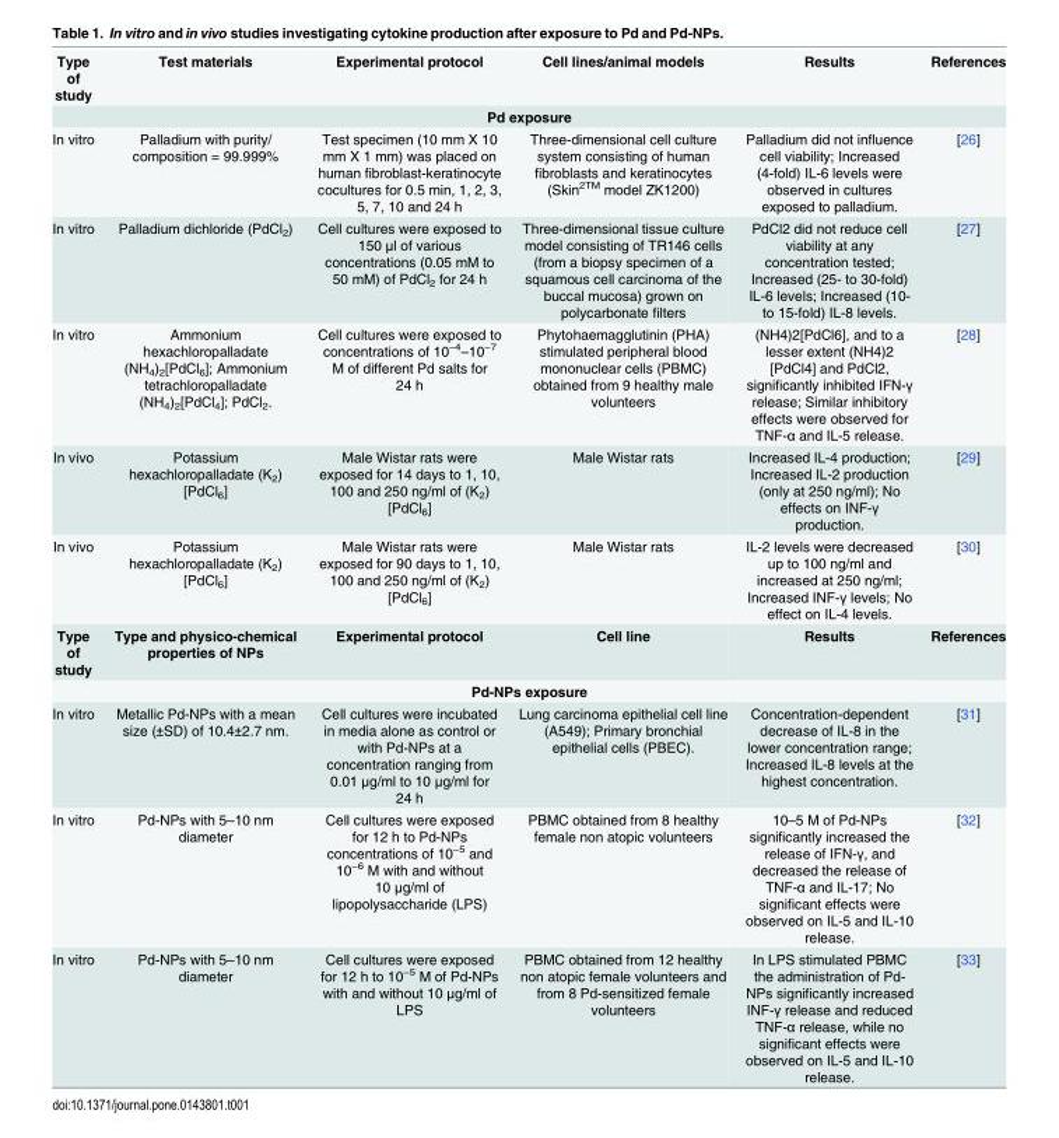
<table><tbody><tr><td>Type of study</td><td>Test materials</td><td>Experimental protocol</td><td>Cell lines/animal models</td><td>Results</td><td>References</td></tr><tr><td colspan="6">Pd exposure</td></tr><tr><td>In vitro</td><td>Palladium with purity/ composition = 99.999%</td><td>Test specimen (10 mm X 10 mm X 1 mm) was placed on human fibroblast-keratinocyte cocultures for 0.5 min, 1, 2, 3, 5, 7, 10 and 24 h</td><td>Three-dimensional cell culture system consisting of human fibroblasts and keratinocytes (Skin<sup>2TM</sup> model ZK1200)</td><td>Palladium did not influence cell viability; Increased (4-fold) IL-6 levels were observed in cultures exposed to palladium.</td><td>[26]</td></tr><tr><td>In vitro</td><td>Palladium dichloride (PdCl<sub>2</sub>)</td><td>Cell cultures were exposed to 150 μl of various concentrations (0.05 mM to 50 mM) of PdCl<sub>2</sub> for 24 h</td><td>Three-dimensional tissue culture model consisting of TR146 cells (from a biopsy specimen of a squamous cell carcinoma of the buccal mucosa) grown on polycarbonate filters</td><td>PdCl2 did not reduce cell viability at any concentration tested; Increased (25- to 30-fold) IL-6 levels; Increased (10- to 15-fold) IL-8 levels.</td><td>[27]</td></tr><tr><td>In vitro</td><td>Ammonium hexachloropalladate (NH<sub>4</sub>)<sub>2</sub>[PdCl<sub>6</sub>]; Ammonium tetrachloropalladate (NH<sub>4</sub>)<sub>2</sub>[PdCl<sub>4</sub>]; PdCl<sub>2</sub>.</td><td>Cell cultures were exposed to concentrations of 10<sup>−4</sup>–10<sup>−7</sup> M of different Pd salts for 24 h</td><td>Phytohaemagglutinin (PHA) stimulated peripheral blood mononuclear cells (PBMC) obtained from 9 healthy male volunteers</td><td>(NH4)2[PdCl6], and to a lesser extent (NH4)2 [PdCl4] and PdCl2, significantly inhibited IFN-γ release; Similar inhibitory effects were observed for TNF-α and IL-5 release.</td><td>[28]</td></tr><tr><td>In vivo</td><td>Potassium hexachloropalladate (K<sub>2</sub>) [PdCl<sub>6</sub>]</td><td>Male Wistar rats were exposed for 14 days to 1, 10, 100 and 250 ng/ml of (K<sub>2</sub>) [PdCl<sub>6</sub>]</td><td>Male Wistar rats</td><td>Increased IL-4 production; Increased IL-2 production (only at 250 ng/ml); No effects on INF-γ production.</td><td>[29]</td></tr><tr><td>In vivo</td><td>Potassium hexachloropalladate (K<sub>2</sub>) [PdCl<sub>6</sub>]</td><td>Male Wistar rats were exposed for 90 days to 1, 10, 100 and 250 ng/ml of (K<sub>2</sub>) [PdCl<sub>6</sub>]</td><td>Male Wistar rats</td><td>IL-2 levels were decreased up to 100 ng/ml and increased at 250 ng/ml; Increased INF-γ levels; No effect on IL-4 levels.</td><td>[30]</td></tr><tr><td>Type of study</td><td>Type and physico-chemical properties of NPs</td><td>Experimental protocol</td><td>Cell line</td><td>Results</td><td>References</td></tr><tr><td colspan="6">Pd-NPs exposure</td></tr><tr><td>In vitro</td><td>Metallic Pd-NPs with a mean size (±SD) of 10.4±2.7 nm.</td><td>Cell cultures were incubated in media alone as control or with Pd-NPs at a concentration ranging from 0.01 μg/ml to 10 μg/ml for 24 h</td><td>Lung carcinoma epithelial cell line (A549); Primary bronchial epithelial cells (PBEC).</td><td>Concentration-dependent decrease of IL-8 in the lower concentration range; Increased IL-8 levels at the highest concentration.</td><td>[31]</td></tr><tr><td>In vitro</td><td>Pd-NPs with 5–10 nm diameter</td><td>Cell cultures were exposed for 12 h to Pd-NPs concentrations of 10<sup>−5</sup> and 10<sup>−6</sup> M with and without 10 μg/ml of lipopolysaccharide (LPS)</td><td>PBMC obtained from 8 healthy female non atopic volunteers</td><td>10–5 M of Pd-NPs significantly increased the release of IFN-γ, and decreased the release of TNF-α and IL-17; No significant effects were observed on IL-5 and IL-10 release.</td><td>[32]</td></tr><tr><td>In vitro</td><td>Pd-NPs with 5–10 nm diameter</td><td>Cell cultures were exposed for 12 h to 10<sup>−5</sup> M of Pd-NPs with and without 10 μg/ml of LPS</td><td>PBMC obtained from 12 healthy non atopic female volunteers and from 8 Pd-sensitized female volunteers</td><td>In LPS stimulated PBMC the administration of Pd- NPs significantly increased INF-γ release and reduced TNF-α release, while no significant effects were observed on IL-5 and IL-10 release.</td><td>[33]</td></tr></tbody></table>